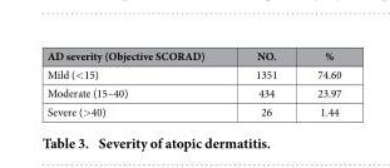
<table><thead><tr><td>AD severity (Objective SCORAD)</td><td>NO.</td><td>%</td></tr></thead><tbody><tr><td>Mild (&lt; 15)</td><td>1351</td><td>74.60</td></tr><tr><td>Moderate (15–40)</td><td>434</td><td>23.97</td></tr><tr><td>Severe (&gt; 40)</td><td>26</td><td>1.44</td></tr></tbody></table>